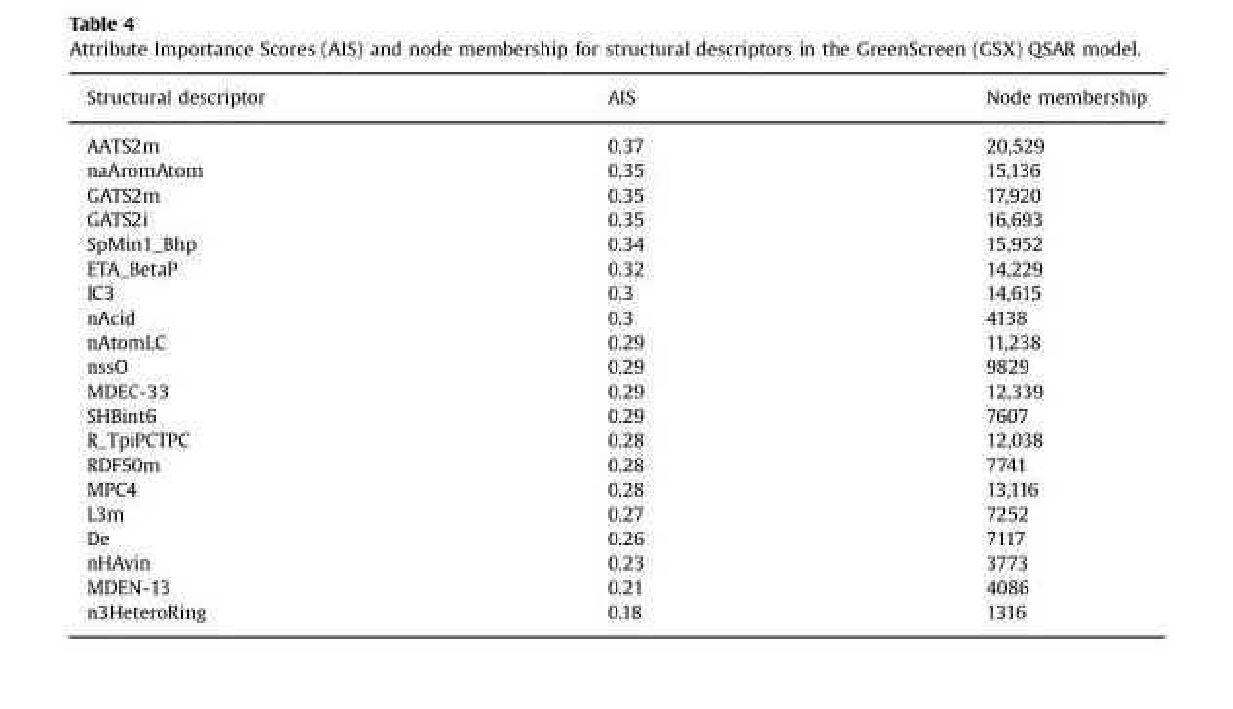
<table><thead><tr><td>Structural descriptor</td><td>AIS</td><td>Node membership</td></tr></thead><tbody><tr><td>AATS2m</td><td>0.37</td><td>20,529</td></tr><tr><td>naAromAtom</td><td>0.35</td><td>15,136</td></tr><tr><td>GATS2m</td><td>0.35</td><td>17,920</td></tr><tr><td>GATS2i</td><td>0.35</td><td>16,693</td></tr><tr><td>SpMin1_Bhp</td><td>0.34</td><td>15,952</td></tr><tr><td>ETA_BetaP</td><td>0.32</td><td>14,229</td></tr><tr><td>IC3</td><td>0.3</td><td>14,615</td></tr><tr><td>nAcid</td><td>0.3</td><td>4138</td></tr><tr><td>nAtomLC</td><td>0.29</td><td>11,238</td></tr><tr><td>nssO</td><td>0.29</td><td>9829</td></tr><tr><td>MDEC-33</td><td>0.29</td><td>12,339</td></tr><tr><td>SHBint6</td><td>0.29</td><td>7607</td></tr><tr><td>R_TpiPCTPC</td><td>0.28</td><td>12,038</td></tr><tr><td>RDF50m</td><td>0.28</td><td>7741</td></tr><tr><td>MPC4</td><td>0.28</td><td>13,116</td></tr><tr><td>L3m</td><td>0.27</td><td>7252</td></tr><tr><td>De</td><td>0.26</td><td>7117</td></tr><tr><td>nHAvin</td><td>0.23</td><td>3773</td></tr><tr><td>MDEN-13</td><td>0.21</td><td>4086</td></tr><tr><td>n3HeteroRing</td><td>0.18</td><td>1316</td></tr></tbody></table>